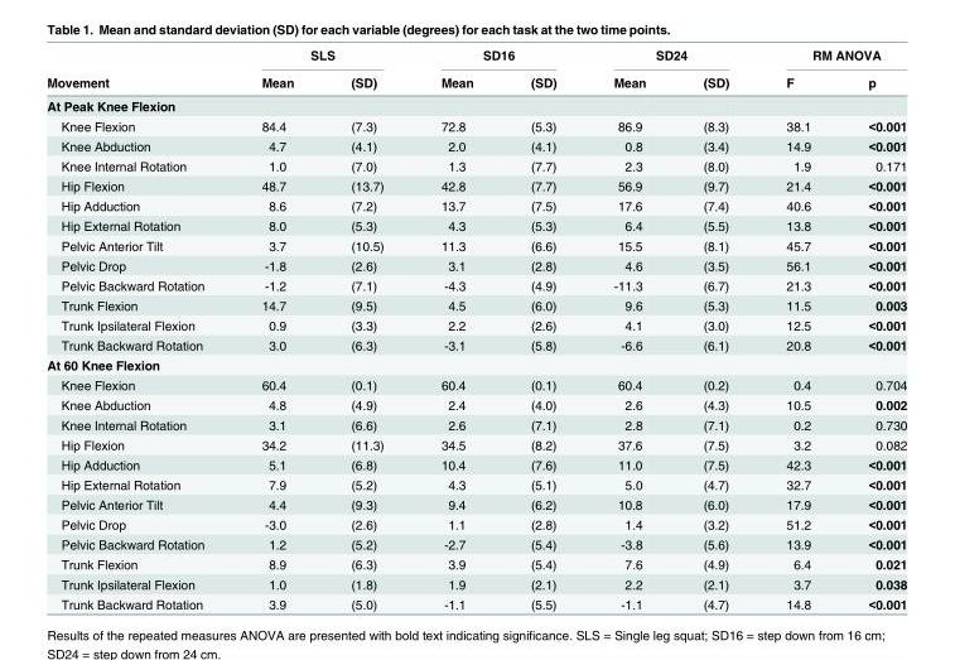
<table><thead><tr><td rowspan="2">Movement</td><td colspan="2">SLS</td><td colspan="2">SD16</td><td colspan="2">SD24</td><td colspan="2">RM ANOVA</td></tr><tr><td>Mean</td><td>(SD)</td><td>Mean</td><td>(SD)</td><td>Mean</td><td>(SD)</td><td>F</td><td>p</td></tr></thead><tbody><tr><td colspan="9">At Peak Knee Flexion</td></tr><tr><td>Knee Flexion</td><td>84.4</td><td>(7.3)</td><td>72.8</td><td>(5.3)</td><td>86.9</td><td>(8.3)</td><td>38.1</td><td>&lt;0.001</td></tr><tr><td>Knee Abduction</td><td>4.7</td><td>(4.1)</td><td>2.0</td><td>(4.1)</td><td>0.8</td><td>(3.4)</td><td>14.9</td><td>&lt;0.001</td></tr><tr><td>Knee Internal Rotation</td><td>1.0</td><td>(7.0)</td><td>1.3</td><td>(7.7)</td><td>2.3</td><td>(8.0)</td><td>1.9</td><td>0.171</td></tr><tr><td>Hip Flexion</td><td>48.7</td><td>(13.7)</td><td>42.8</td><td>(7.7)</td><td>56.9</td><td>(9.7)</td><td>21.4</td><td>&lt;0.001</td></tr><tr><td>Hip Adduction</td><td>8.6</td><td>(7.2)</td><td>13.7</td><td>(7.5)</td><td>17.6</td><td>(7.4)</td><td>40.6</td><td>&lt;0.001</td></tr><tr><td>Hip External Rotation</td><td>8.0</td><td>(5.3)</td><td>4.3</td><td>(5.3)</td><td>6.4</td><td>(5.5)</td><td>13.8</td><td>&lt;0.001</td></tr><tr><td>Pelvic Anterior Tilt</td><td>3.7</td><td>(10.5)</td><td>11.3</td><td>(6.6)</td><td>15.5</td><td>(8.1)</td><td>45.7</td><td>&lt;0.001</td></tr><tr><td>Pelvic Drop</td><td>-1.8</td><td>(2.6)</td><td>3.1</td><td>(2.8)</td><td>4.6</td><td>(3.5)</td><td>56.1</td><td>&lt;0.001</td></tr><tr><td>Pelvic Backward Rotation</td><td>-1.2</td><td>(7.1)</td><td>-4.3</td><td>(4.9)</td><td>-11.3</td><td>(6.7)</td><td>21.3</td><td>&lt;0.001</td></tr><tr><td>Trunk Flexion</td><td>14.7</td><td>(9.5)</td><td>4.5</td><td>(6.0)</td><td>9.6</td><td>(5.3)</td><td>11.5</td><td>0.003</td></tr><tr><td>Trunk Ipsilateral Flexion</td><td>0.9</td><td>(3.3)</td><td>2.2</td><td>(2.6)</td><td>4.1</td><td>(3.0)</td><td>12.5</td><td>&lt;0.001</td></tr><tr><td>Trunk Backward Rotation</td><td>3.0</td><td>(6.3)</td><td>-3.1</td><td>(5.8)</td><td>-6.6</td><td>(6.1)</td><td>20.8</td><td>&lt;0.001</td></tr><tr><td colspan="9">At 60 Knee Flexion</td></tr><tr><td>Knee Flexion</td><td>60.4</td><td>(0.1)</td><td>60.4</td><td>(0.1)</td><td>60.4</td><td>(0.2)</td><td>0.4</td><td>0.704</td></tr><tr><td>Knee Abduction</td><td>4.8</td><td>(4.9)</td><td>2.4</td><td>(4.0)</td><td>2.6</td><td>(4.3)</td><td>10.5</td><td>0.002</td></tr><tr><td>Knee Internal Rotation</td><td>3.1</td><td>(6.6)</td><td>2.6</td><td>(7.1)</td><td>2.8</td><td>(7.1)</td><td>0.2</td><td>0.730</td></tr><tr><td>Hip Flexion</td><td>34.2</td><td>(11.3)</td><td>34.5</td><td>(8.2)</td><td>37.6</td><td>(7.5)</td><td>3.2</td><td>0.082</td></tr><tr><td>Hip Adduction</td><td>5.1</td><td>(6.8)</td><td>10.4</td><td>(7.6)</td><td>11.0</td><td>(7.5)</td><td>42.3</td><td>&lt;0.001</td></tr><tr><td>Hip External Rotation</td><td>7.9</td><td>(5.2)</td><td>4.3</td><td>(5.1)</td><td>5.0</td><td>(4.7)</td><td>32.7</td><td>&lt;0.001</td></tr><tr><td>Pelvic Anterior Tilt</td><td>4.4</td><td>(9.3)</td><td>9.4</td><td>(6.2)</td><td>10.8</td><td>(6.0)</td><td>17.9</td><td>&lt;0.001</td></tr><tr><td>Pelvic Drop</td><td>-3.0</td><td>(2.6)</td><td>1.1</td><td>(2.8)</td><td>1.4</td><td>(3.2)</td><td>51.2</td><td>&lt;0.001</td></tr><tr><td>Pelvic Backward Rotation</td><td>1.2</td><td>(5.2)</td><td>-2.7</td><td>(5.4)</td><td>-3.8</td><td>(5.6)</td><td>13.9</td><td>&lt;0.001</td></tr><tr><td>Trunk Flexion</td><td>8.9</td><td>(6.3)</td><td>3.9</td><td>(5.4)</td><td>7.6</td><td>(4.9)</td><td>6.4</td><td>0.021</td></tr><tr><td>Trunk Ipsilateral Flexion</td><td>1.0</td><td>(1.8)</td><td>1.9</td><td>(2.1)</td><td>2.2</td><td>(2.1)</td><td>3.7</td><td>0.038</td></tr><tr><td>Trunk Backward Rotation</td><td>3.9</td><td>(5.0)</td><td>-1.1</td><td>(5.5)</td><td>-1.1</td><td>(4.7)</td><td>14.8</td><td>&lt;0.001</td></tr></tbody></table>